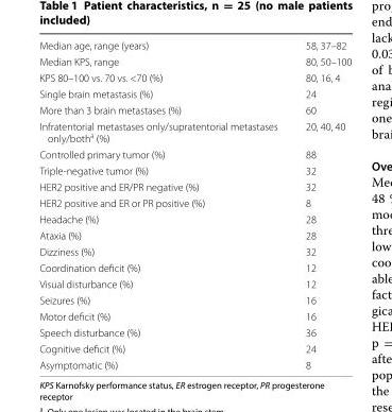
<table><tbody><tr><td>Median age, range (years)</td><td>58, 37–82</td></tr><tr><td>Median KPS, range</td><td>80, 50–100</td></tr><tr><td>KPS 80–100 vs. 70 vs. &lt;70 (%)</td><td>80, 16, 4</td></tr><tr><td>Single brain metastasis (%)</td><td>24</td></tr><tr><td>More than 3 brain metastases (%)</td><td>60</td></tr><tr><td>Infratentorial metastases only/supratentorial metastases only/both<sup>a</sup> (%)</td><td>20, 40, 40</td></tr><tr><td>Controlled primary tumor (%)</td><td>88</td></tr><tr><td>Triple-negative tumor (%)</td><td>32</td></tr><tr><td>HER2 positive and ER/PR negative (%)</td><td>32</td></tr><tr><td>HER2 positive and ER or PR positive (%)</td><td>8</td></tr><tr><td>Headache (%)</td><td>28</td></tr><tr><td>Ataxia (%)</td><td>28</td></tr><tr><td>Dizziness (%)</td><td>32</td></tr><tr><td>Coordination deficit (%)</td><td>12</td></tr><tr><td>Visual disturbance (%)</td><td>12</td></tr><tr><td>Seizures (%)</td><td>16</td></tr><tr><td>Motor deficit (%)</td><td>16</td></tr><tr><td>Speech disturbance (%)</td><td>36</td></tr><tr><td>Cognitive deficit (%)</td><td>24</td></tr><tr><td>Asymptomatic (%)</td><td>8</td></tr></tbody></table>